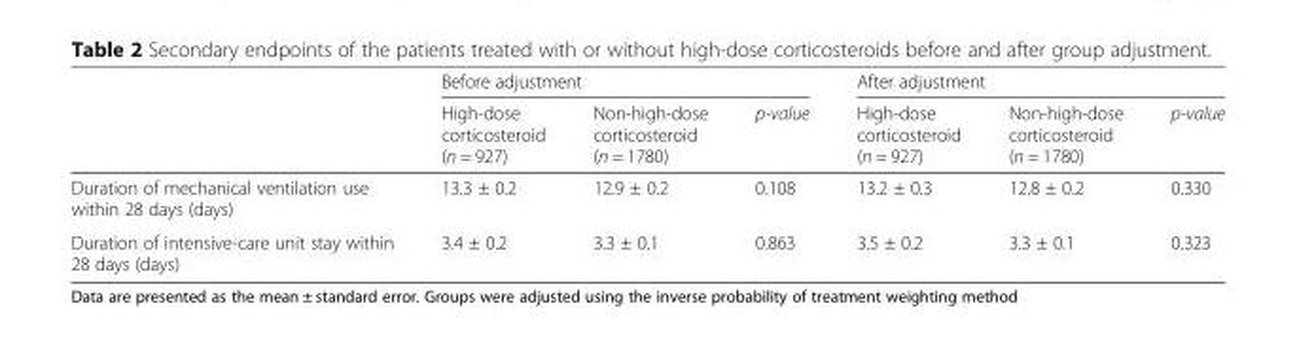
<table><thead><tr><td rowspan="2"></td><td colspan="3">Before adjustment</td><td colspan="3">After adjustment</td></tr><tr><td>High-dose corticosteroid (n = 927)</td><td>Non-high-dose corticosteroid (n = 1780)</td><td>p-value</td><td>High-dose corticosteroid (n = 927)</td><td>Non-high-dose corticosteroid (n = 1780)</td><td>p-value</td></tr></thead><tbody><tr><td>Duration of mechanical ventilation use within 28 days (days)</td><td>13.3 ± 0.2</td><td>12.9 ± 0.2</td><td>0.108</td><td>13.2 ± 0.3</td><td>12.8 ± 0.2</td><td>0.330</td></tr><tr><td>Duration of intensive-care unit stay within 28 days (days)</td><td>3.4 ± 0.2</td><td>3.3 ± 0.1</td><td>0.863</td><td>3.5 ± 0.2</td><td>3.3 ± 0.1</td><td>0.323</td></tr></tbody></table>